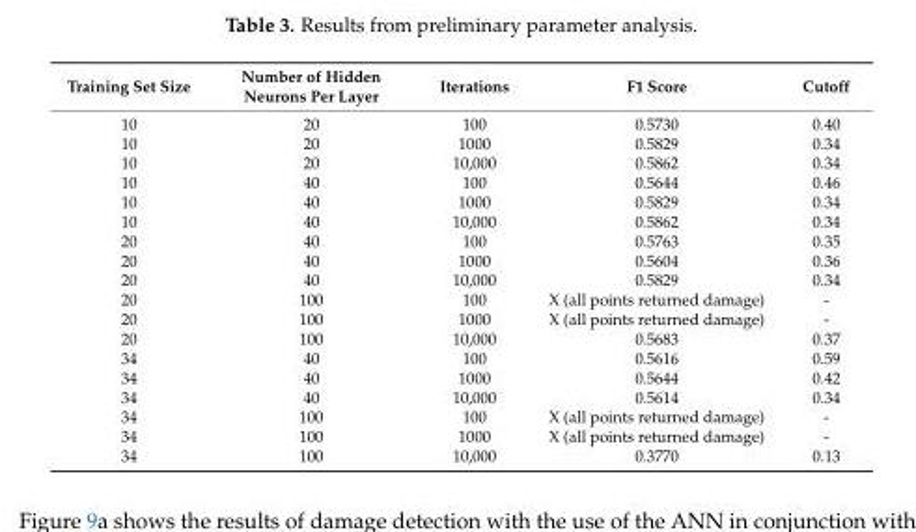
<table><thead><tr><td>Training Set Size</td><td>Number of Hidden Neurons Per Layer</td><td>Iterations</td><td>F1 Score</td><td>Cutoff</td></tr></thead><tbody><tr><td>10</td><td>20</td><td>100</td><td>0.5730</td><td>0.40</td></tr><tr><td>10</td><td>20</td><td>1000</td><td>0.5829</td><td>0.34</td></tr><tr><td>10</td><td>20</td><td>10,000</td><td>0.5862</td><td>0.34</td></tr><tr><td>10</td><td>40</td><td>100</td><td>0.5644</td><td>0.46</td></tr><tr><td>10</td><td>40</td><td>1000</td><td>0.5829</td><td>0.34</td></tr><tr><td>10</td><td>40</td><td>10,000</td><td>0.5862</td><td>0.34</td></tr><tr><td>20</td><td>40</td><td>100</td><td>0.5763</td><td>0.35</td></tr><tr><td>20</td><td>40</td><td>1000</td><td>0.5604</td><td>0.36</td></tr><tr><td>20</td><td>40</td><td>10,000</td><td>0.5829</td><td>0.34</td></tr><tr><td>20</td><td>100</td><td>100</td><td>X (all points returned damage)</td><td>-</td></tr><tr><td>20</td><td>100</td><td>1000</td><td>X (all points returned damage)</td><td>-</td></tr><tr><td>20</td><td>100</td><td>10,000</td><td>0.5683</td><td>0.37</td></tr><tr><td>34</td><td>40</td><td>100</td><td>0.5616</td><td>0.59</td></tr><tr><td>34</td><td>40</td><td>1000</td><td>0.5644</td><td>0.42</td></tr><tr><td>34</td><td>40</td><td>10,000</td><td>0.5614</td><td>0.34</td></tr><tr><td>34</td><td>100</td><td>100</td><td>X (all points returned damage)</td><td>-</td></tr><tr><td>34</td><td>100</td><td>1000</td><td>X (all points returned damage)</td><td>-</td></tr><tr><td>34</td><td>100</td><td>10,000</td><td>0.3770</td><td>0.13</td></tr></tbody></table>